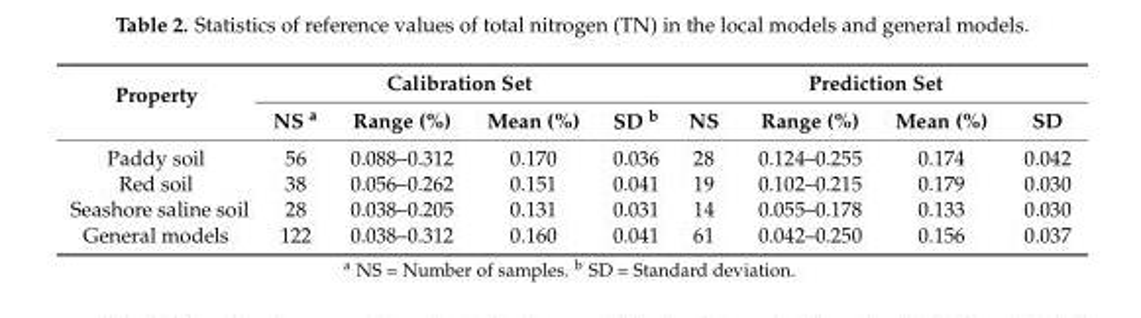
<table><thead><tr><td rowspan="2">Property</td><td colspan="4">Calibration Set</td><td colspan="4">Prediction Set</td></tr><tr><td>NS <sup>a</sup></td><td>Range (%)</td><td>Mean (%)</td><td>SD <sup>b</sup></td><td>NS</td><td>Range (%)</td><td>Mean (%)</td><td>SD</td></tr></thead><tbody><tr><td>Paddy soil</td><td>56</td><td>0.088–0.312</td><td>0.170</td><td>0.036</td><td>28</td><td>0.124–0.255</td><td>0.174</td><td>0.042</td></tr><tr><td>Red soil</td><td>38</td><td>0.056–0.262</td><td>0.151</td><td>0.041</td><td>19</td><td>0.102–0.215</td><td>0.179</td><td>0.030</td></tr><tr><td>Seashore saline soil</td><td>28</td><td>0.038–0.205</td><td>0.131</td><td>0.031</td><td>14</td><td>0.055–0.178</td><td>0.133</td><td>0.030</td></tr><tr><td>General models</td><td>122</td><td>0.038–0.312</td><td>0.160</td><td>0.041</td><td>61</td><td>0.042–0.250</td><td>0.156</td><td>0.037</td></tr></tbody></table>